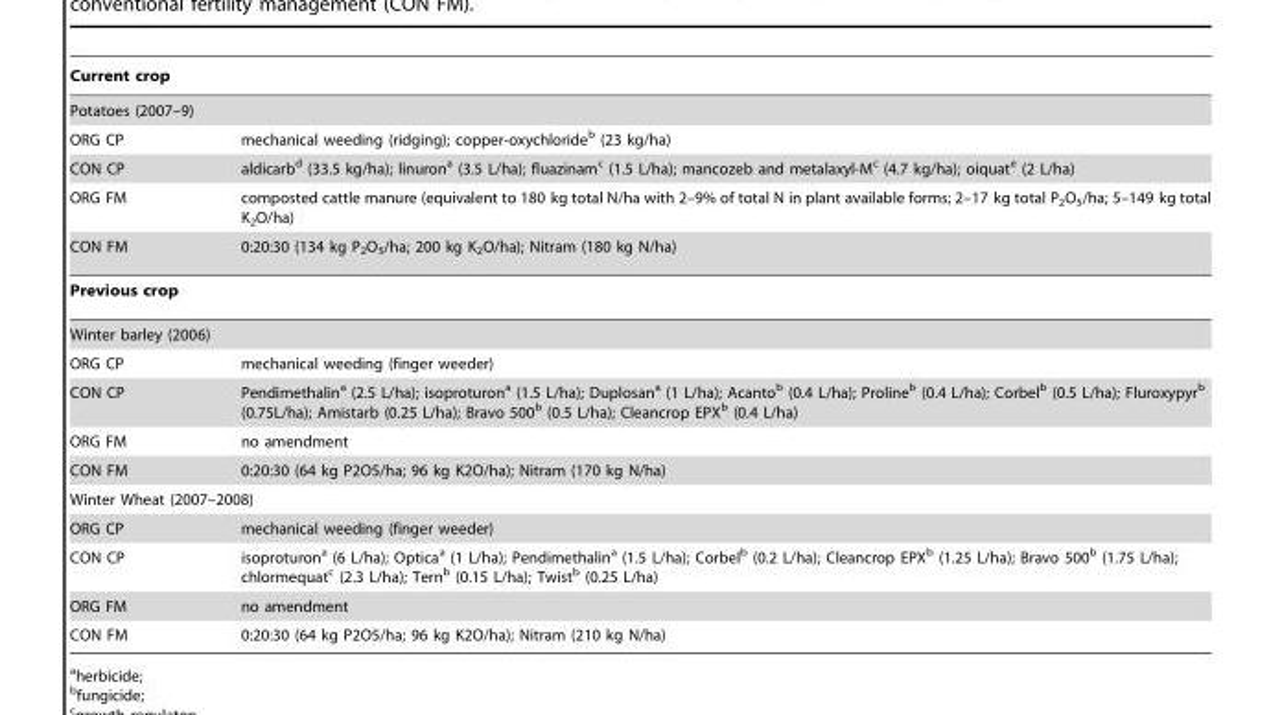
<table><thead><tr><td rowspan="2" colspan="2">Current crop Potatoes (2007–9)</td></tr><tr></tr><tr><td>ORG CP</td><td>mechanical weeding (ridging); copper-oxychloride<sup>b</sup> (23 kg/ha)</td></tr></thead><tbody><tr><td>CON CP</td><td>aldicarb<sup>d</sup> (33.5 kg/ha); linuron<sup>a</sup> (3.5 L/ha); fluazinam<sup>c</sup> (1.5 L/ha); mancozeb and metalaxyl-M<sup>c</sup> (4.7 kg/ha); oiquat<sup>e</sup> (2 L/ha)</td></tr><tr><td>ORG FM</td><td>composted cattle manure (equivalent to 180 kg total N/ha with 2–9% of total N in plant available forms; 2–17 kg total P<sub>2</sub>O<sub>5</sub>/ha; 5–149 kg total K<sub>2</sub>O/ha)</td></tr><tr><td>CON FM</td><td>0:20:30 (134 kg P2O5/ha; 200 kg K2O/ha); Nitram (180 kg N/ha)</td></tr><tr><td colspan="2">Previous crop</td></tr><tr><td colspan="2">Winter barley (2006)</td></tr><tr><td>ORG CP</td><td>mechanical weeding (finger weeder)</td></tr><tr><td>CON CP</td><td>Pendimethalin<sup>a</sup> (2.5 L/ha); isoproturon<sup>a</sup> (1.5 L/ha); Duplosan<sup>a</sup> (1 L/ha); Acanto<sup>b</sup> (0.4 L/ha); Proline<sup>b</sup> (0.4 L/ha); Corbel<sup>b</sup> (0.5 L/ha); Fluroxypyr<sup>b</sup> (0.75L/ha); Amistarb (0.25 L/ha); Bravo 500<sup>b</sup> (0.5 L/ha); Cleancrop EPX<sup>b</sup> (0.4 L/ha)</td></tr><tr><td>ORG FM</td><td>no amendment</td></tr><tr><td>CON FM</td><td>0:20:30 (64 kg P2O5/ha; 96 kg K2O/ha); Nitram (170 kg N/ha)</td></tr><tr><td colspan="2">Winter Wheat (2007–2008)</td></tr><tr><td>ORG CP</td><td>mechanical weeding (finger weeder)</td></tr><tr><td>CON CP</td><td>isoproturon<sup>a</sup> (6 L/ha); Optica<sup>a</sup> (1 L/ha); Pendimethalin<sup>a</sup> (1.5 L/ha); Corbel<sup>b</sup> (0.2 L/ha); Cleancrop EPX<sup>b</sup> (1.25 L/ha); Bravo 500<sup>b</sup> (1.75 L/ha); chlormequat<sup>c</sup> (2.3 L/ha); Tern<sup>b</sup> (0.15 L/ha); Twist<sup>b</sup> (0.25 L/ha)</td></tr><tr><td>ORG FM</td><td>no amendment</td></tr><tr><td>CON FM</td><td>0:20:30 (64 kg P2O5/ha; 96 kg K2O/ha); Nitram (210 kg N/ha)</td></tr></tbody></table>